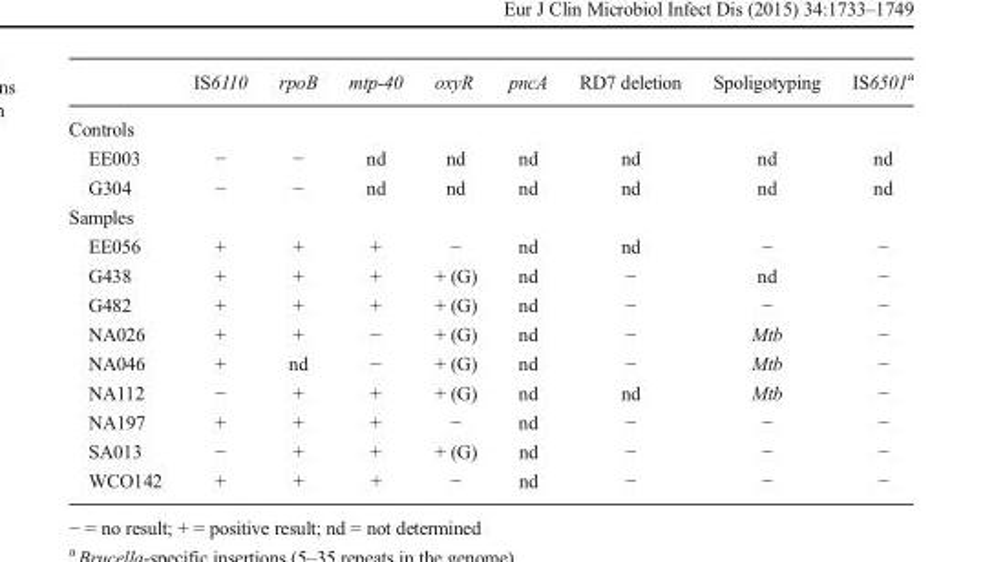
<table><thead><tr><td></td><td>IS6110</td><td>rpoB</td><td>mtp-40</td><td>oxyR</td><td>pncA</td><td>RD7 deletion</td><td>Spoligotyping</td><td>IS6501<sup>a</sup></td></tr></thead><tbody><tr><td colspan="9">Controls</td></tr><tr><td>EE003</td><td>−</td><td>−</td><td>nd</td><td>nd</td><td>nd</td><td>nd</td><td>nd</td><td>nd</td></tr><tr><td>G304</td><td>−</td><td>−</td><td>nd</td><td>nd</td><td>nd</td><td>nd</td><td>nd</td><td>nd</td></tr><tr><td colspan="9">Samples</td></tr><tr><td>EE056</td><td>+</td><td>+</td><td>+</td><td>−</td><td>nd</td><td>nd</td><td>−</td><td>−</td></tr><tr><td>G438</td><td>+</td><td>+</td><td>+</td><td>+ (G)</td><td>nd</td><td>−</td><td>nd</td><td>−</td></tr><tr><td>G482</td><td>+</td><td>+</td><td>+</td><td>+ (G)</td><td>nd</td><td>−</td><td>−</td><td>−</td></tr><tr><td>NA026</td><td>+</td><td>+</td><td>−</td><td>+ (G)</td><td>nd</td><td>−</td><td>Mtb</td><td>−</td></tr><tr><td>NA046</td><td>+</td><td>nd</td><td>−</td><td>+ (G)</td><td>nd</td><td>−</td><td>Mtb</td><td>−</td></tr><tr><td>NA112</td><td>−</td><td>+</td><td>+</td><td>+ (G)</td><td>nd</td><td>nd</td><td>Mtb</td><td>−</td></tr><tr><td>NA197</td><td>+</td><td>+</td><td>+</td><td>−</td><td>nd</td><td>−</td><td>−</td><td>−</td></tr><tr><td>SA013</td><td>−</td><td>+</td><td>+</td><td>+ (G)</td><td>nd</td><td>−</td><td>−</td><td>−</td></tr><tr><td>WCO142</td><td>+</td><td>+</td><td>+</td><td>−</td><td>nd</td><td>−</td><td>−</td><td>−</td></tr></tbody></table>